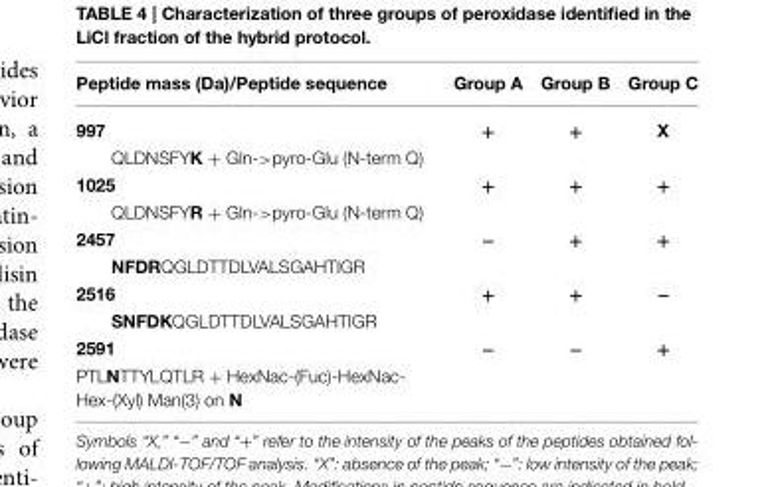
<table><thead><tr><td>Peptide mass (Da)/Peptide sequence</td><td>Group A</td><td>Group B</td><td>Group C</td></tr></thead><tbody><tr><td>997</td><td>+</td><td>+</td><td>X</td></tr><tr><td colspan="4">QLDNSFYK + Gln-&gt;pyro-Glu (N-term Q)</td></tr><tr><td>1025</td><td>+</td><td>+</td><td>+</td></tr><tr><td colspan="4">QLDNSFYR + Gln-&gt;pyro-Glu (N-term Q)</td></tr><tr><td>2457</td><td>−</td><td>+</td><td>+</td></tr><tr><td colspan="4">NFDRQGLDTTDLVALSGAHTIGR</td></tr><tr><td>2516</td><td>+</td><td>+</td><td>−</td></tr><tr><td colspan="4">SNFDKQGLDTTDLVALSGAHTIGR</td></tr><tr><td>2591</td><td>−</td><td>−</td><td>+</td></tr><tr><td>PTLNTTYLQTLR + HexNac-(Fuc)-HexNac- Hex-(Xyl) Man(3) on N</td><td></td><td></td><td></td></tr></tbody></table>